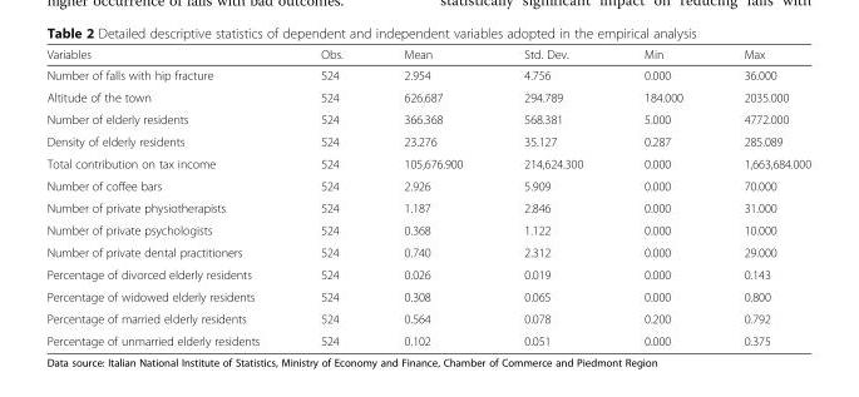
<table><thead><tr><td>Variables</td><td>Obs.</td><td>Mean</td><td>Std. Dev.</td><td>Min</td><td>Max</td></tr></thead><tbody><tr><td>Number of falls with hip fracture</td><td>524</td><td>2.954</td><td>4.756</td><td>0.000</td><td>36.000</td></tr><tr><td>Altitude of the town</td><td>524</td><td>626.687</td><td>294.789</td><td>184.000</td><td>2035.000</td></tr><tr><td>Number of elderly residents</td><td>524</td><td>366.368</td><td>568.381</td><td>5.000</td><td>4772.000</td></tr><tr><td>Density of elderly residents</td><td>524</td><td>23.276</td><td>35.127</td><td>0.287</td><td>285.089</td></tr><tr><td>Total contribution on tax income</td><td>524</td><td>105,676.900</td><td>214,624.300</td><td>0.000</td><td>1,663,684.000</td></tr><tr><td>Number of coffee bars</td><td>524</td><td>2.926</td><td>5.909</td><td>0.000</td><td>70.000</td></tr><tr><td>Number of private physiotherapists</td><td>524</td><td>1.187</td><td>2.846</td><td>0.000</td><td>31.000</td></tr><tr><td>Number of private psychologists</td><td>524</td><td>0.368</td><td>1.122</td><td>0.000</td><td>10.000</td></tr><tr><td>Number of private dental practitioners</td><td>524</td><td>0.740</td><td>2.312</td><td>0.000</td><td>29.000</td></tr><tr><td>Percentage of divorced elderly residents</td><td>524</td><td>0.026</td><td>0.019</td><td>0.000</td><td>0.143</td></tr><tr><td>Percentage of widowed elderly residents</td><td>524</td><td>0.308</td><td>0.065</td><td>0.000</td><td>0.800</td></tr><tr><td>Percentage of married elderly residents</td><td>524</td><td>0.564</td><td>0.078</td><td>0.200</td><td>0.792</td></tr><tr><td>Percentage of unmarried elderly residents</td><td>524</td><td>0.102</td><td>0.051</td><td>0.000</td><td>0.375</td></tr></tbody></table>